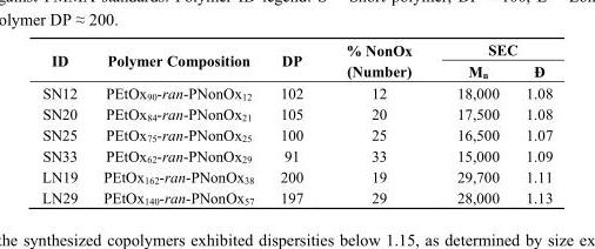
<table><thead><tr><td rowspan="2">ID</td><td rowspan="2">Polymer Composition</td><td rowspan="2">DP</td><td rowspan="2">% NonOx (Number)</td><td colspan="2">SEC</td></tr><tr><td>M<sub>n</sub></td><td>Đ</td></tr></thead><tbody><tr><td>SN12</td><td>PEtOx<sub>90</sub>-ran-PNonOx<sub>12</sub></td><td>102</td><td>12</td><td>18,000</td><td>1.08</td></tr><tr><td>SN20</td><td>PEtOx<sub>84</sub>-ran-PNonOx<sub>21</sub></td><td>105</td><td>20</td><td>17,500</td><td>1.08</td></tr><tr><td>SN25</td><td>PEtOx<sub>75</sub>-ran-PNonOx<sub>25</sub></td><td>100</td><td>25</td><td>16,500</td><td>1.07</td></tr><tr><td>SN33</td><td>PEtOx<sub>62</sub>-ran-PNonOx<sub>29</sub></td><td>91</td><td>33</td><td>15,000</td><td>1.09</td></tr><tr><td>LN19</td><td>PEtOx<sub>162</sub>-ran-PNonOx<sub>38</sub></td><td>200</td><td>19</td><td>29,700</td><td>1.11</td></tr><tr><td>LN29</td><td>PEtOx<sub>140</sub>-ran-PNonOx<sub>57</sub></td><td>197</td><td>29</td><td>28,000</td><td>1.13</td></tr></tbody></table>